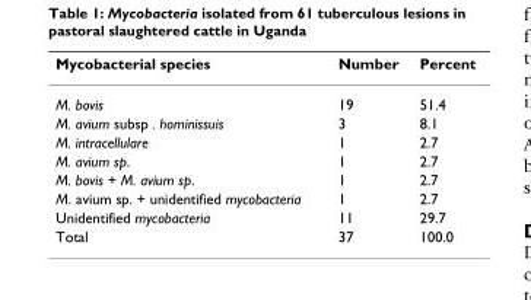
<table><thead><tr><td>Mycobacterial species</td><td>Number</td><td>Percent</td></tr></thead><tbody><tr><td>M. bovis</td><td>19</td><td>51.4</td></tr><tr><td>M. avium subsp . hominissuis</td><td>3</td><td>8.1</td></tr><tr><td>M. intracellulare</td><td>1</td><td>2.7</td></tr><tr><td>M. avium sp.</td><td>1</td><td>2.7</td></tr><tr><td>M. bovis + M. avium sp.</td><td>1</td><td>2.7</td></tr><tr><td>M. avium sp. + unidentified mycobacteria</td><td>1</td><td>2.7</td></tr><tr><td>Unidentified mycobacteria</td><td>11</td><td>29.7</td></tr><tr><td>Total</td><td>37</td><td>100.0</td></tr></tbody></table>